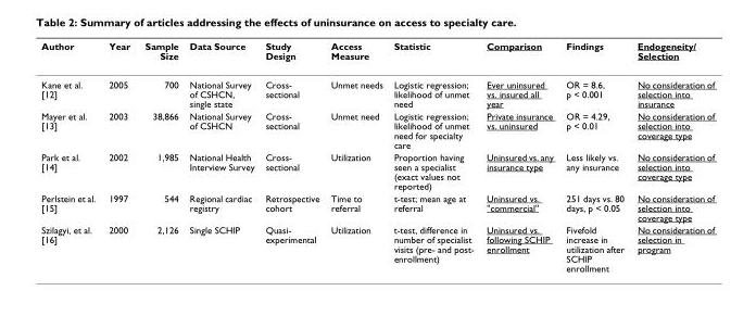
<table><thead><tr><td>Author</td><td>Year</td><td>Sample Size</td><td>Data Source</td><td>Study Design</td><td>Access Measure</td><td>Statistic</td><td>Comparison</td><td>Findings</td><td>Endogeneity/ Selection</td></tr></thead><tbody><tr><td>Kane et al. [12]</td><td>2005</td><td>700</td><td>National Survey of CSHCN, single state</td><td>Cross- sectional</td><td>Unmet needs</td><td>Logistic regression; likelihood of unmet need</td><td>Ever uninsured vs. insured all year</td><td>OR = 8.6, p &lt; 0.001</td><td>No consideration of selection into insurance</td></tr><tr><td>Mayer et al. [13]</td><td>2003</td><td>38,866</td><td>National Survey of CSHCN</td><td>Cross- sectional</td><td>Unmet need</td><td>Logistic regression; likelihood of unmet need for specialty care</td><td>Private insurance vs. uninsured</td><td>OR = 4.29, p &lt; 0.01</td><td>No consideration of selection into coverage type</td></tr><tr><td>Park et al. [14]</td><td>2002</td><td>1,985</td><td>National Health Interview Survey</td><td>Cross- sectional</td><td>Utilization</td><td>Proportion having seen a specialist (exact values not reported)</td><td>Uninsured vs. any insurance type</td><td>Less likely vs. any insurance</td><td>No consideration of selection into coverage type</td></tr><tr><td>Perlstein et al. [15]</td><td>1997</td><td>544</td><td>Regional cardiac registry</td><td>Retrospective cohort</td><td>Time to referral</td><td>t-test; mean age at referral</td><td>Uninsured vs. &quot;commercial&quot;</td><td>251 days vs. 80 days, p &lt; 0.05</td><td>No consideration of selection into coverage type</td></tr><tr><td>Szilagyi, et al. [16]</td><td>2000</td><td>2,126</td><td>Single SCHIP</td><td>Quasi- experimental</td><td>Utilization</td><td>t-test, difference in number of specialist visits (pre- and post- enrollment)</td><td>Uninsured vs. following SCHIP enrollment</td><td>Fivefold increase in utilization after SCHIP enrollment</td><td>No consideration of selection in program</td></tr></tbody></table>